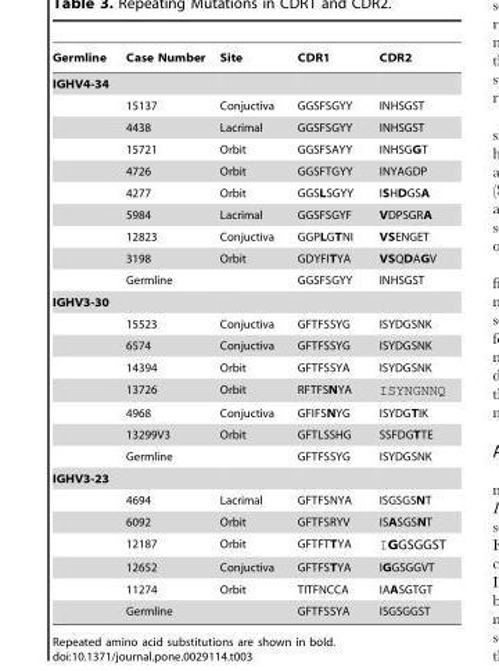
<table><thead><tr><td>Germline</td><td>Case Number</td><td>Site</td><td>CDR1</td><td>CDR2</td></tr></thead><tbody><tr><td colspan="5">IGHV4-34</td></tr><tr><td></td><td>15137</td><td>Conjuctiva</td><td>GGSFSGYY</td><td>INHSGST</td></tr><tr><td></td><td>4438</td><td>Lacrimal</td><td>GGSFSGYY</td><td>INHSGST</td></tr><tr><td></td><td>15721</td><td>Orbit</td><td>GGSFSAYY</td><td>INHSGGT</td></tr><tr><td></td><td>4726</td><td>Orbit</td><td>GGSFTGYY</td><td>INYAGDP</td></tr><tr><td></td><td>4277</td><td>Orbit</td><td>GGSLSGYY</td><td>ISHDGSA</td></tr><tr><td></td><td>5984</td><td>Lacrimal</td><td>GGSFSGYF</td><td>VDPSGRA</td></tr><tr><td></td><td>12823</td><td>Conjuctiva</td><td>GGPLGTNI</td><td>VSENGET</td></tr><tr><td></td><td>3198</td><td>Orbit</td><td>GDYFITYA</td><td>VSQDAGV</td></tr><tr><td></td><td>Germline</td><td></td><td>GGSFSGYY</td><td>INHSGST</td></tr><tr><td colspan="5">IGHV3-30</td></tr><tr><td></td><td>15523</td><td>Conjuctiva</td><td>GFTFSSYG</td><td>ISYDGSNK</td></tr><tr><td></td><td>6574</td><td>Conjuctiva</td><td>GFTFSSYG</td><td>ISYDGSNK</td></tr><tr><td></td><td>14394</td><td>Orbit</td><td>GFTFSSYA</td><td>ISYDGSNK</td></tr><tr><td></td><td>13726</td><td>Orbit</td><td>RFTFSNYA</td><td>ISYNGNNQ</td></tr><tr><td></td><td>4968</td><td>Conjuctiva</td><td>GFIFSNYG</td><td>ISYDGTIK</td></tr><tr><td></td><td>13299V3</td><td>Orbit</td><td>GFTLSSHG</td><td>SSFDGTTE</td></tr><tr><td></td><td>Germline</td><td></td><td>GFTFSSYG</td><td>ISYDGSNK</td></tr><tr><td colspan="5">IGHV3-23</td></tr><tr><td></td><td>4694</td><td>Lacrimal</td><td>GFTFSNYA</td><td>ISGSGSNT</td></tr><tr><td></td><td>6092</td><td>Orbit</td><td>GFTFSRYV</td><td>ISASGSNT</td></tr><tr><td></td><td>12187</td><td>Orbit</td><td>GFTFTTYA</td><td>IGGSGGST</td></tr><tr><td></td><td>12652</td><td>Conjuctiva</td><td>GFTFSTYA</td><td>IGGSGGVT</td></tr><tr><td></td><td>11274</td><td>Orbit</td><td>TITFNCCA</td><td>IAASGTGT</td></tr><tr><td></td><td>Germline</td><td></td><td>GFTFSSYA</td><td>ISGSGGST</td></tr></tbody></table>